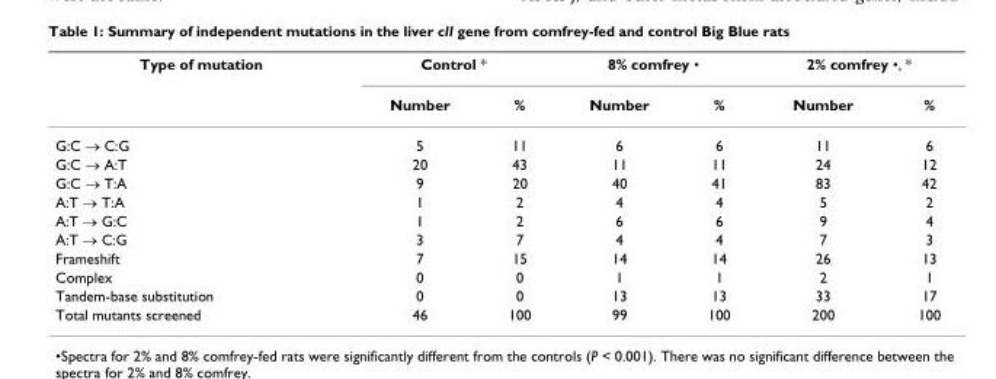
<table><thead><tr><td rowspan="2">Type of mutation</td><td colspan="2">Control *</td><td colspan="2">8% comfrey •</td><td colspan="2">2% comfrey •, *</td></tr><tr><td>Number</td><td>%</td><td>Number</td><td>%</td><td>Number</td><td>%</td></tr></thead><tbody><tr><td>G:C → C:G</td><td>5</td><td>11</td><td>6</td><td>6</td><td>11</td><td>6</td></tr><tr><td>G:C → A:T</td><td>20</td><td>43</td><td>11</td><td>11</td><td>24</td><td>12</td></tr><tr><td>G:C → T:A</td><td>9</td><td>20</td><td>40</td><td>41</td><td>83</td><td>42</td></tr><tr><td>A:T → T:A</td><td>1</td><td>2</td><td>4</td><td>4</td><td>5</td><td>2</td></tr><tr><td>A:T → G:C</td><td>1</td><td>2</td><td>6</td><td>6</td><td>9</td><td>4</td></tr><tr><td>A:T → C:G</td><td>3</td><td>7</td><td>4</td><td>4</td><td>7</td><td>3</td></tr><tr><td>Frameshift</td><td>7</td><td>15</td><td>14</td><td>14</td><td>26</td><td>13</td></tr><tr><td>Complex</td><td>0</td><td>0</td><td>1</td><td>1</td><td>2</td><td>1</td></tr><tr><td>Tandem-base substitution</td><td>0</td><td>0</td><td>13</td><td>13</td><td>33</td><td>17</td></tr><tr><td>Total mutants screened</td><td>46</td><td>100</td><td>99</td><td>100</td><td>200</td><td>100</td></tr></tbody></table>